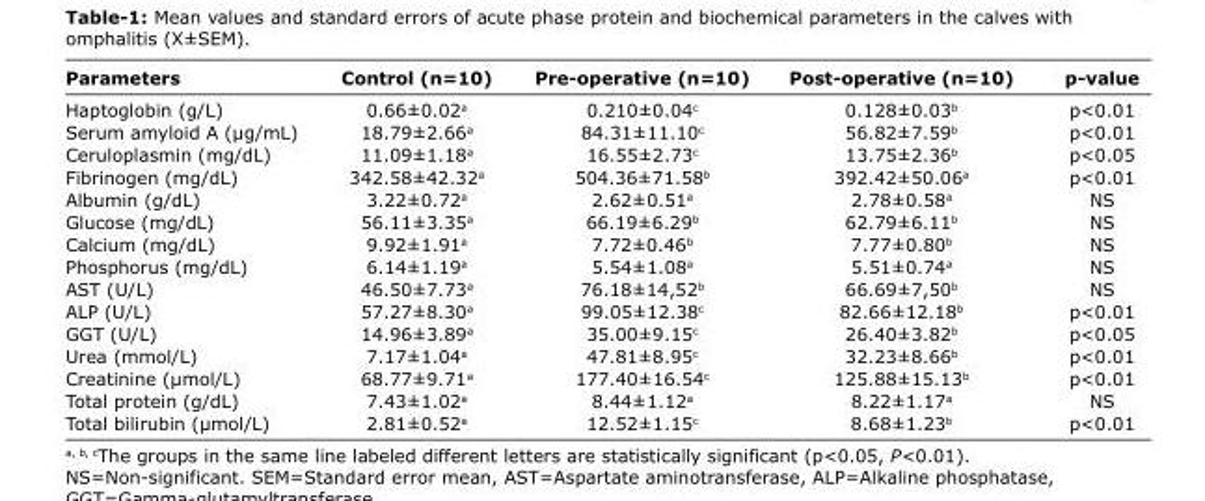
<table><thead><tr><td>Parameters</td><td>Control (n=10)</td><td>Pre-operative (n=10)</td><td>Post-operative (n=10)</td><td>p-value</td></tr></thead><tbody><tr><td>Haptoglobin (g/L)</td><td>0.66±0.02<sup>a</sup></td><td>0.210±0.04<sup>c</sup></td><td>0.128±0.03<sup>b</sup></td><td>p&lt;0.01</td></tr><tr><td>Serum amyloid A (µg/mL)</td><td>18.79±2.66<sup>a</sup></td><td>84.31±11.10<sup>c</sup></td><td>56.82±7.59<sup>b</sup></td><td>p&lt;0.01</td></tr><tr><td>Ceruloplasmin (mg/dL)</td><td>11.09±1.18<sup>a</sup></td><td>16.55±2.73<sup>c</sup></td><td>13.75±2.36<sup>b</sup></td><td>p&lt;0.05</td></tr><tr><td>Fibrinogen (mg/dL)</td><td>342.58±42.32<sup>a</sup></td><td>504.36±71.58<sup>b</sup></td><td>392.42±50.06<sup>a</sup></td><td>p&lt;0.01</td></tr><tr><td>Albumin (g/dL)</td><td>3.22±0.72<sup>a</sup></td><td>2.62±0.51<sup>a</sup></td><td>2.78±0.58<sup>a</sup></td><td>NS</td></tr><tr><td>Glucose (mg/dL)</td><td>56.11±3.35<sup>a</sup></td><td>66.19±6.29<sup>b</sup></td><td>62.79±6.11<sup>b</sup></td><td>NS</td></tr><tr><td>Calcium (mg/dL)</td><td>9.92±1.91<sup>a</sup></td><td>7.72±0.46<sup>b</sup></td><td>7.77±0.80<sup>b</sup></td><td>NS</td></tr><tr><td>Phosphorus (mg/dL)</td><td>6.14±1.19<sup>a</sup></td><td>5.54±1.08<sup>a</sup></td><td>5.51±0.74<sup>a</sup></td><td>NS</td></tr><tr><td>AST (U/L)</td><td>46.50±7.73<sup>a</sup></td><td>76.18±14,52<sup>b</sup></td><td>66.69±7,50<sup>b</sup></td><td>NS</td></tr><tr><td>ALP (U/L)</td><td>57.27±8.30<sup>a</sup></td><td>99.05±12.38<sup>c</sup></td><td>82.66±12.18<sup>b</sup></td><td>p&lt;0.01</td></tr><tr><td>GGT (U/L)</td><td>14.96±3.89<sup>a</sup></td><td>35.00±9.15<sup>c</sup></td><td>26.40±3.82<sup>b</sup></td><td>p&lt;0.05</td></tr><tr><td>Urea (mmol/L)</td><td>7.17±1.04<sup>a</sup></td><td>47.81±8.95<sup>c</sup></td><td>32.23±8.66<sup>b</sup></td><td>p&lt;0.01</td></tr><tr><td>Creatinine (µmol/L)</td><td>68.77±9.71<sup>a</sup></td><td>177.40±16.54<sup>c</sup></td><td>125.88±15.13<sup>b</sup></td><td>p&lt;0.01</td></tr><tr><td>Total protein (g/dL)</td><td>7.43±1.02<sup>a</sup></td><td>8.44±1.12<sup>a</sup></td><td>8.22±1.17<sup>a</sup></td><td>NS</td></tr><tr><td>Total bilirubin (µmol/L)</td><td>2.81±0.52<sup>a</sup></td><td>12.52±1.15<sup>c</sup></td><td>8.68±1.23<sup>b</sup></td><td>p&lt;0.01</td></tr></tbody></table>